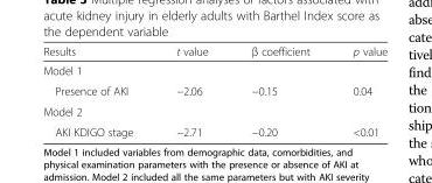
<table><thead><tr><td>Results</td><td>t value</td><td>β coefficient</td><td>p value</td></tr></thead><tbody><tr><td colspan="4">Model 1</td></tr><tr><td>Presence of AKI</td><td>−2.06</td><td>−0.15</td><td>0.04</td></tr><tr><td colspan="4">Model 2</td></tr><tr><td>AKI KDIGO stage</td><td>−2.71</td><td>−0.20</td><td>&lt;0.01</td></tr></tbody></table>